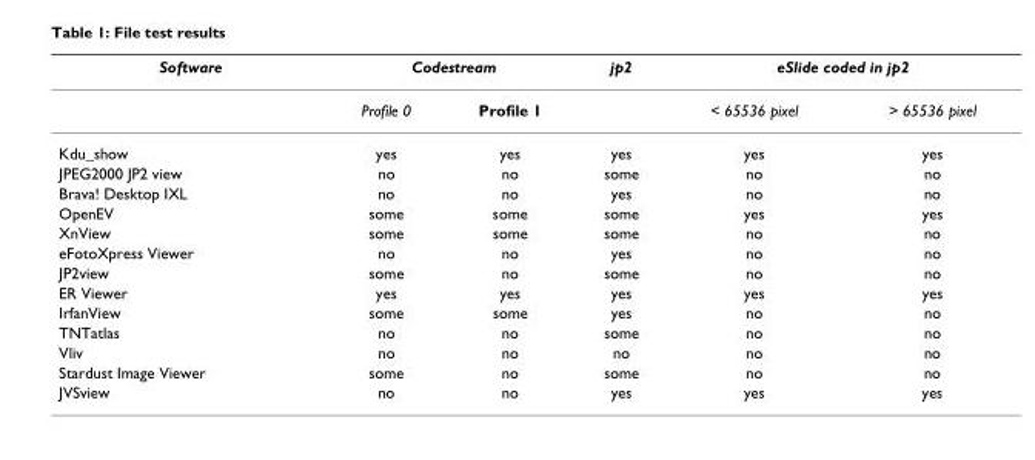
<table><thead><tr><td rowspan="2">Software</td><td colspan="2">Codestream</td><td rowspan="2">jp2</td><td colspan="2">eSlide coded in jp2</td></tr><tr><td>Profile 0</td><td>Profile 1</td><td>&lt; 65536 pixel</td><td>&gt; 65536 pixel</td></tr></thead><tbody><tr><td>Kdu_show</td><td>yes</td><td>yes</td><td>yes</td><td>yes</td><td>yes</td></tr><tr><td>JPEG2000 JP2 view</td><td>no</td><td>no</td><td>some</td><td>no</td><td>no</td></tr><tr><td>Brava! Desktop IXL</td><td>no</td><td>no</td><td>yes</td><td>no</td><td>no</td></tr><tr><td>OpenEV</td><td>some</td><td>some</td><td>some</td><td>yes</td><td>yes</td></tr><tr><td>XnView</td><td>some</td><td>some</td><td>some</td><td>no</td><td>no</td></tr><tr><td>eFotoXpress Viewer</td><td>no</td><td>no</td><td>yes</td><td>no</td><td>no</td></tr><tr><td>JP2view</td><td>some</td><td>no</td><td>some</td><td>no</td><td>no</td></tr><tr><td>ER Viewer</td><td>yes</td><td>yes</td><td>yes</td><td>yes</td><td>yes</td></tr><tr><td>IrfanView</td><td>some</td><td>some</td><td>yes</td><td>no</td><td>no</td></tr><tr><td>TNTatlas</td><td>no</td><td>no</td><td>some</td><td>no</td><td>no</td></tr><tr><td>Vliv</td><td>no</td><td>no</td><td>no</td><td>no</td><td>no</td></tr><tr><td>Stardust Image Viewer</td><td>some</td><td>no</td><td>some</td><td>no</td><td>no</td></tr><tr><td>JVSview</td><td>no</td><td>no</td><td>yes</td><td>yes</td><td>yes</td></tr></tbody></table>